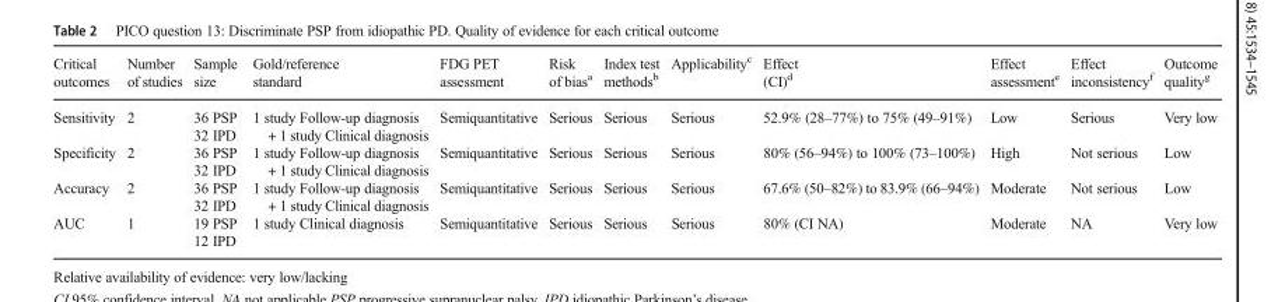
<table><thead><tr><td>Critical outcomes</td><td>Number of studies</td><td>Sample size</td><td>Gold/reference standard</td><td>FDG PET assessment</td><td>Risk of bias<sup>a</sup></td><td>Index test methods<sup>b</sup></td><td>Applicability<sup>c</sup></td><td>Effect (CI)<sup>d</sup></td><td>Effect assessment<sup>e</sup></td><td>Effect inconsistency<sup>f</sup></td><td>Outcome quality<sup>g</sup></td></tr></thead><tbody><tr><td>Sensitivity</td><td>2</td><td>36 PSP 32 IPD</td><td>1 study Follow-up diagnosis + 1 study Clinical diagnosis</td><td>Semiquantitative</td><td>Serious</td><td>Serious</td><td>Serious</td><td>52.9% (28–77%) to 75% (49–91%)</td><td>Low</td><td>Serious</td><td>Very low</td></tr><tr><td>Specificity</td><td>2</td><td>36 PSP 32 IPD</td><td>1 study Follow-up diagnosis + 1 study Clinical diagnosis</td><td>Semiquantitative</td><td>Serious</td><td>Serious</td><td>Serious</td><td>80% (56–94%) to 100% (73–100%)</td><td>High</td><td>Not serious</td><td>Low</td></tr><tr><td>Accuracy</td><td>2</td><td>36 PSP 32 IPD</td><td>1 study Follow-up diagnosis + 1 study Clinical diagnosis</td><td>Semiquantitative</td><td>Serious</td><td>Serious</td><td>Serious</td><td>67.6% (50–82%) to 83.9% (66–94%)</td><td>Moderate</td><td>Not serious</td><td>Low</td></tr><tr><td>AUC</td><td>1</td><td>19 PSP 12 IPD</td><td>1 study Clinical diagnosis</td><td>Semiquantitative</td><td>Serious</td><td>Serious</td><td>Serious</td><td>80% (CI NA)</td><td>Moderate</td><td>NA</td><td>Very low</td></tr></tbody></table>